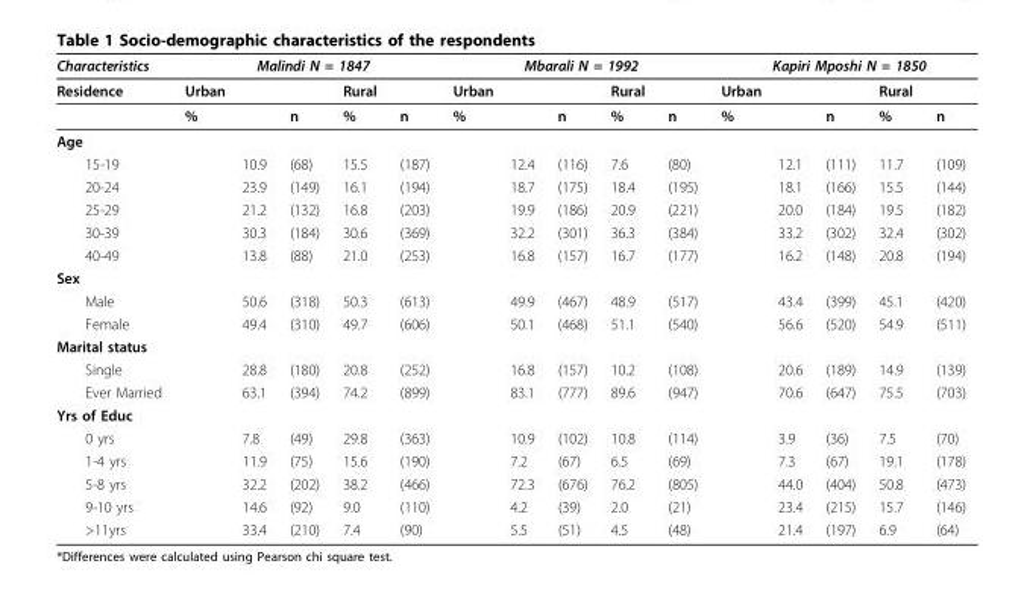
<table><thead><tr><td rowspan="2">Characteristics Residence</td><td colspan="4">Malindi N = 1847</td><td colspan="4">Mbarali N = 1992</td><td colspan="4">Kapiri Mposhi N = 1850</td></tr><tr><td>Urban</td><td></td><td>Rural</td><td></td><td>Urban</td><td></td><td>Rural</td><td></td><td>Urban</td><td></td><td>Rural</td><td></td></tr></thead><tbody><tr><td></td><td>%</td><td>n</td><td>%</td><td>n</td><td>%</td><td>n</td><td>%</td><td>n</td><td>%</td><td>n</td><td>%</td><td>n</td></tr><tr><td colspan="13">Age</td></tr><tr><td>15-19</td><td>10.9</td><td>(68)</td><td>15.5</td><td>(187)</td><td>12.4</td><td>(116)</td><td>7.6</td><td>(80)</td><td>12.1</td><td>(111)</td><td>11.7</td><td>(109)</td></tr><tr><td>20-24</td><td>23.9</td><td>(149)</td><td>16.1</td><td>(194)</td><td>18.7</td><td>(175)</td><td>18.4</td><td>(195)</td><td>18.1</td><td>(166)</td><td>15.5</td><td>(144)</td></tr><tr><td>25-29</td><td>21.2</td><td>(132)</td><td>16.8</td><td>(203)</td><td>19.9</td><td>(186)</td><td>20.9</td><td>(221)</td><td>20.0</td><td>(184)</td><td>19.5</td><td>(182)</td></tr><tr><td>30-39</td><td>30.3</td><td>(184)</td><td>30.6</td><td>(369)</td><td>32.2</td><td>(301)</td><td>36.3</td><td>(384)</td><td>33.2</td><td>(302)</td><td>32.4</td><td>(302)</td></tr><tr><td>40-49</td><td>13.8</td><td>(88)</td><td>21.0</td><td>(253)</td><td>16.8</td><td>(157)</td><td>16.7</td><td>(177)</td><td>16.2</td><td>(148)</td><td>20.8</td><td>(194)</td></tr><tr><td colspan="13">Sex</td></tr><tr><td>Male</td><td>50.6</td><td>(318)</td><td>50.3</td><td>(613)</td><td>49.9</td><td>(467)</td><td>48.9</td><td>(517)</td><td>43.4</td><td>(399)</td><td>45.1</td><td>(420)</td></tr><tr><td>Female</td><td>49.4</td><td>(310)</td><td>49.7</td><td>(606)</td><td>50.1</td><td>(468)</td><td>51.1</td><td>(540)</td><td>56.6</td><td>(520)</td><td>54.9</td><td>(511)</td></tr><tr><td colspan="13">Marital status</td></tr><tr><td>Single</td><td>28.8</td><td>(180)</td><td>20.8</td><td>(252)</td><td>16.8</td><td>(157)</td><td>10.2</td><td>(108)</td><td>20.6</td><td>(189)</td><td>14.9</td><td>(139)</td></tr><tr><td>Ever Married</td><td>63.1</td><td>(394)</td><td>74.2</td><td>(899)</td><td>83.1</td><td>(777)</td><td>89.6</td><td>(947)</td><td>70.6</td><td>(647)</td><td>75.5</td><td>(703)</td></tr><tr><td colspan="13">Yrs of Educ</td></tr><tr><td>0 yrs</td><td>7.8</td><td>(49)</td><td>29.8</td><td>(363)</td><td>10.9</td><td>(102)</td><td>10.8</td><td>(114)</td><td>3.9</td><td>(36)</td><td>7.5</td><td>(70)</td></tr><tr><td>1-4 yrs</td><td>11.9</td><td>(75)</td><td>15.6</td><td>(190)</td><td>7.2</td><td>(67)</td><td>6.5</td><td>(69)</td><td>7.3</td><td>(67)</td><td>19.1</td><td>(178)</td></tr><tr><td>5-8 yrs</td><td>32.2</td><td>(202)</td><td>38.2</td><td>(466)</td><td>72.3</td><td>(676)</td><td>76.2</td><td>(805)</td><td>44.0</td><td>(404)</td><td>50.8</td><td>(473)</td></tr><tr><td>9-10 yrs</td><td>14.6</td><td>(92)</td><td>9.0</td><td>(110)</td><td>4.2</td><td>(39)</td><td>2.0</td><td>(21)</td><td>23.4</td><td>(215)</td><td>15.7</td><td>(146)</td></tr><tr><td>&gt;11yrs</td><td>33.4</td><td>(210)</td><td>7.4</td><td>(90)</td><td>5.5</td><td>(51)</td><td>4.5</td><td>(48)</td><td>21.4</td><td>(197)</td><td>6.9</td><td>(64)</td></tr></tbody></table>